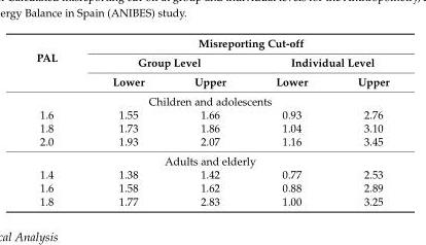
<table><thead><tr><td rowspan="3">PAL</td><td colspan="4">Misreporting Cut-off</td></tr><tr><td colspan="2">Group Level</td><td colspan="2">Individual Level</td></tr><tr><td>Lower</td><td>Upper</td><td>Lower</td><td>Upper</td></tr></thead><tbody><tr><td colspan="5">Children and adolescents</td></tr><tr><td>1.6</td><td>1.55</td><td>1.66</td><td>0.93</td><td>2.76</td></tr><tr><td>1.8</td><td>1.73</td><td>1.86</td><td>1.04</td><td>3.10</td></tr><tr><td>2.0</td><td>1.93</td><td>2.07</td><td>1.16</td><td>3.45</td></tr><tr><td colspan="5">Adults and elderly</td></tr><tr><td>1.4</td><td>1.38</td><td>1.42</td><td>0.77</td><td>2.53</td></tr><tr><td>1.6</td><td>1.58</td><td>1.62</td><td>0.88</td><td>2.89</td></tr><tr><td>1.8</td><td>1.77</td><td>2.83</td><td>1.00</td><td>3.25</td></tr></tbody></table>